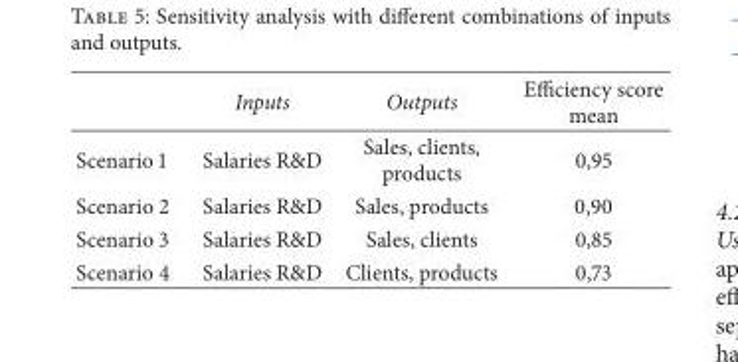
<table><thead><tr><td></td><td>Inputs</td><td>Outputs</td><td>Efficiency score mean</td></tr></thead><tbody><tr><td>Scenario 1</td><td>Salaries R&amp;D</td><td>Sales, clients, products</td><td>0,95</td></tr><tr><td>Scenario 2</td><td>Salaries R&amp;D</td><td>Sales, products</td><td>0,90</td></tr><tr><td>Scenario 3</td><td>Salaries R&amp;D</td><td>Sales, clients</td><td>0,85</td></tr><tr><td>Scenario 4</td><td>Salaries R&amp;D</td><td>Clients, products</td><td>0,73</td></tr></tbody></table>